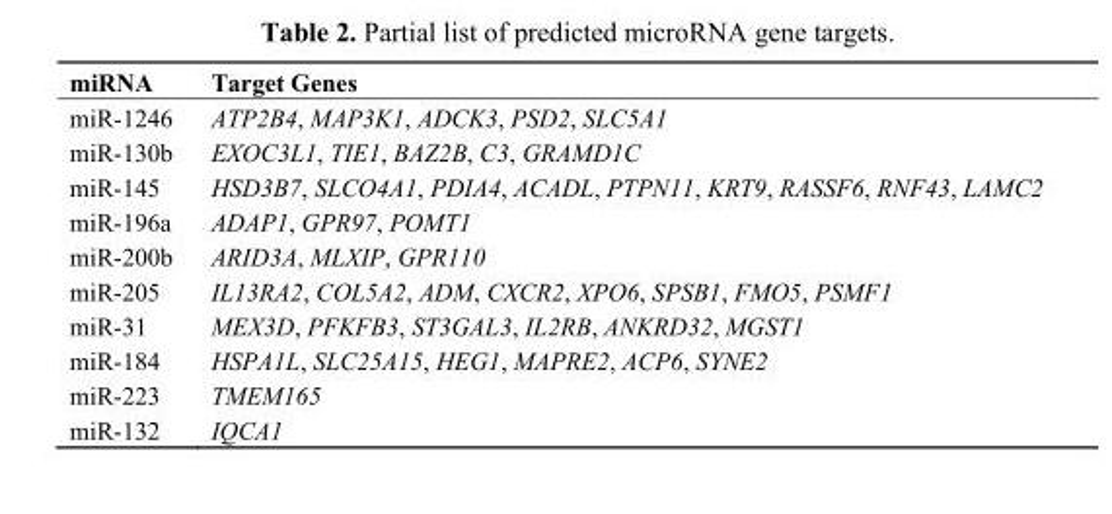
<table><thead><tr><td>miRNA</td><td>Target Genes</td></tr></thead><tbody><tr><td>miR-1246</td><td>ATP2B4, MAP3K1, ADCK3, PSD2, SLC5A1</td></tr><tr><td>miR-130b</td><td>EXOC3L1, TIE1, BAZ2B, C3, GRAMD1C</td></tr><tr><td>miR-145</td><td>HSD3B7, SLCO4A1, PDIA4, ACADL, PTPN11, KRT9, RASSF6, RNF43, LAMC2</td></tr><tr><td>miR-196a</td><td>ADAP1, GPR97, POMT1</td></tr><tr><td>miR-200b</td><td>ARID3A, MLXIP, GPR110</td></tr><tr><td>miR-205</td><td>IL13RA2, COL5A2, ADM, CXCR2, XPO6, SPSB1, FMO5, PSMF1</td></tr><tr><td>miR-31</td><td>MEX3D, PFKFB3, ST3GAL3, IL2RB, ANKRD32, MGST1</td></tr><tr><td>miR-184</td><td>HSPA1L, SLC25A15, HEG1, MAPRE2, ACP6, SYNE2</td></tr><tr><td>miR-223</td><td>TMEM165</td></tr><tr><td>miR-132</td><td>IQCA1</td></tr></tbody></table>